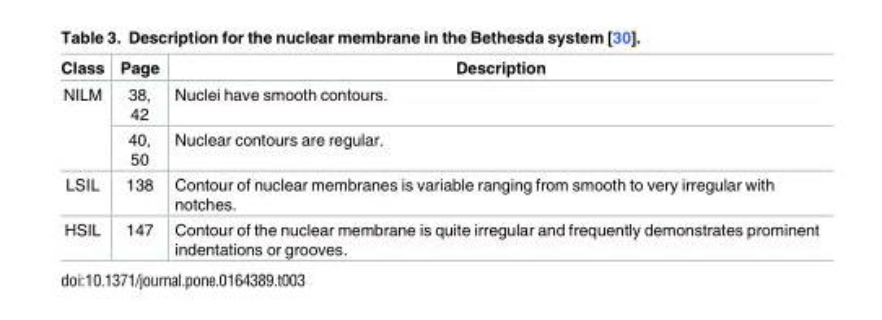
<table><thead><tr><td>Class</td><td>Page</td><td>Description</td></tr></thead><tbody><tr><td rowspan="2">NILM</td><td>38, 42</td><td>Nuclei have smooth contours.</td></tr><tr><td>40, 50</td><td>Nuclear contours are regular.</td></tr><tr><td>LSIL</td><td>138</td><td>Contour of nuclear membranes is variable ranging from smooth to very irregular with notches.</td></tr><tr><td>HSIL</td><td>147</td><td>Contour of the nuclear membrane is quite irregular and frequently demonstrates prominent indentations or grooves.</td></tr></tbody></table>